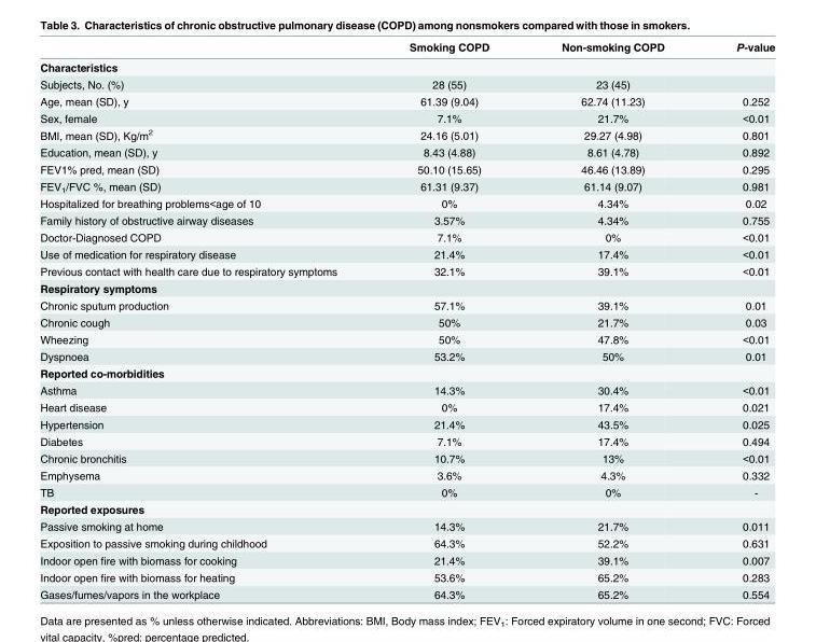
<table><thead><tr><td></td><td>Smoking COPD</td><td>Non-smoking COPD</td><td>P-value</td></tr></thead><tbody><tr><td colspan="4">Characteristics</td></tr><tr><td>Subjects, No. (%)</td><td>28 (55)</td><td>23 (45)</td><td></td></tr><tr><td>Age, mean (SD), y</td><td>61.39 (9.04)</td><td>62.74 (11.23)</td><td>0.252</td></tr><tr><td>Sex, female</td><td>7.1%</td><td>21.7%</td><td>&lt;0.01</td></tr><tr><td>BMI, mean (SD), Kg/m<sup>2</sup></td><td>24.16 (5.01)</td><td>29.27 (4.98)</td><td>0.801</td></tr><tr><td>Education, mean (SD), y</td><td>8.43 (4.88)</td><td>8.61 (4.78)</td><td>0.892</td></tr><tr><td>FEV1% pred, mean (SD)</td><td>50.10 (15.65)</td><td>46.46 (13.89)</td><td>0.295</td></tr><tr><td>FEV<sub>1</sub>/FVC %, mean (SD)</td><td>61.31 (9.37)</td><td>61.14 (9.07)</td><td>0.981</td></tr><tr><td>Hospitalized for breathing problems&lt;age of 10</td><td>0%</td><td>4.34%</td><td>0.02</td></tr><tr><td>Family history of obstructive airway diseases</td><td>3.57%</td><td>4.34%</td><td>0.755</td></tr><tr><td>Doctor-Diagnosed COPD</td><td>7.1%</td><td>0%</td><td>&lt;0.01</td></tr><tr><td>Use of medication for respiratory disease</td><td>21.4%</td><td>17.4%</td><td>&lt;0.01</td></tr><tr><td>Previous contact with health care due to respiratory symptoms</td><td>32.1%</td><td>39.1%</td><td>&lt;0.01</td></tr><tr><td colspan="4">Respiratory symptoms</td></tr><tr><td>Chronic sputum production</td><td>57.1%</td><td>39.1%</td><td>0.01</td></tr><tr><td>Chronic cough</td><td>50%</td><td>21.7%</td><td>0.03</td></tr><tr><td>Wheezing</td><td>50%</td><td>47.8%</td><td>&lt;0.01</td></tr><tr><td>Dyspnoea</td><td>53.2%</td><td>50%</td><td>0.01</td></tr><tr><td colspan="4">Reported co-morbidities</td></tr><tr><td>Asthma</td><td>14.3%</td><td>30.4%</td><td>&lt;0.01</td></tr><tr><td>Heart disease</td><td>0%</td><td>17.4%</td><td>0.021</td></tr><tr><td>Hypertension</td><td>21.4%</td><td>43.5%</td><td>0.025</td></tr><tr><td>Diabetes</td><td>7.1%</td><td>17.4%</td><td>0.494</td></tr><tr><td>Chronic bronchitis</td><td>10.7%</td><td>13%</td><td>&lt;0.01</td></tr><tr><td>Emphysema</td><td>3.6%</td><td>4.3%</td><td>0.332</td></tr><tr><td>TB</td><td>0%</td><td>0%</td><td>-</td></tr><tr><td colspan="4">Reported exposures</td></tr><tr><td>Passive smoking at home</td><td>14.3%</td><td>21.7%</td><td>0.011</td></tr><tr><td>Exposition to passive smoking during childhood</td><td>64.3%</td><td>52.2%</td><td>0.631</td></tr><tr><td>Indoor open fire with biomass for cooking</td><td>21.4%</td><td>39.1%</td><td>0.007</td></tr><tr><td>Indoor open fire with biomass for heating</td><td>53.6%</td><td>65.2%</td><td>0.283</td></tr><tr><td>Gases/fumes/vapors in the workplace</td><td>64.3%</td><td>65.2%</td><td>0.554</td></tr></tbody></table>